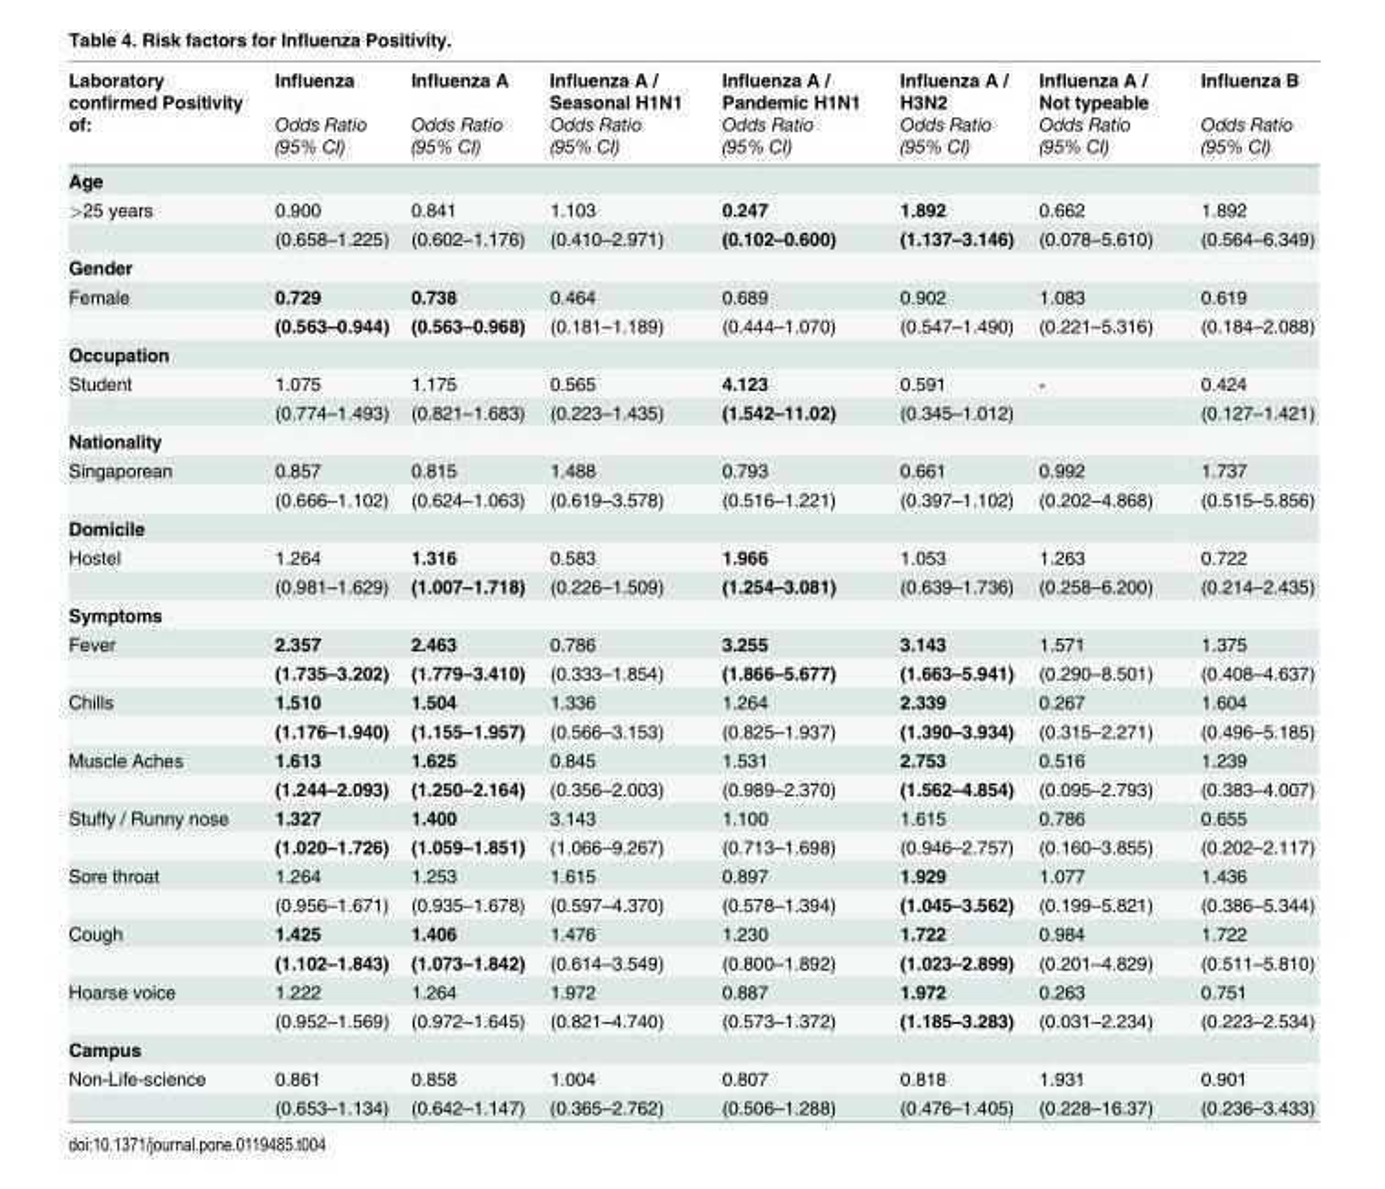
<table><thead><tr><td rowspan="2">Laboratory confirmed Positivity of:</td><td rowspan="2">Influenza Odds Ratio (95% CI)</td><td rowspan="2">Influenza A Odds Ratio (95% CI)</td><td rowspan="2">Influenza A / Seasonal H1N1 Odds Ratio (95% CI)</td><td rowspan="2">Influenza A / Pandemic H1N1 Odds Ratio (95% CI)</td><td rowspan="2">Influenza A / H3N2 Odds Ratio (95% CI)</td><td rowspan="2">Influenza A / Not typeable Odds Ratio (95% CI)</td><td rowspan="2">Influenza B Odds Ratio (95% CI)</td></tr><tr></tr></thead><tbody><tr><td colspan="8">Age</td></tr><tr><td rowspan="2">&gt;25 years</td><td>0.900</td><td>0.841</td><td>1.103</td><td>0.247</td><td>1.892</td><td>0.662</td><td>1.892</td></tr><tr><td>(0.658–1.225)</td><td>(0.602–1.176)</td><td>(0.410–2.971)</td><td>(0.102–0.600)</td><td>(1.137–3.146)</td><td>(0.078–5.610)</td><td>(0.564–6.349)</td></tr><tr><td colspan="8">Gender</td></tr><tr><td rowspan="2">Female</td><td>0.729</td><td>0.738</td><td>0.464</td><td>0.689</td><td>0.902</td><td>1.083</td><td>0.619</td></tr><tr><td>(0.563–0.944)</td><td>(0.563–0.968)</td><td>(0.181–1.189)</td><td>(0.444–1.070)</td><td>(0.547–1.490)</td><td>(0.221–5.316)</td><td>(0.184–2.088)</td></tr><tr><td colspan="8">Occupation</td></tr><tr><td rowspan="2">Student</td><td>1.075</td><td>1.175</td><td>0.565</td><td>4.123</td><td>0.591</td><td>-</td><td>0.424</td></tr><tr><td>(0.774–1.493)</td><td>(0.821–1.683)</td><td>(0.223–1.435)</td><td>(1.542–11.02)</td><td>(0.345–1.012)</td><td></td><td>(0.127–1.421)</td></tr><tr><td colspan="8">Nationality</td></tr><tr><td rowspan="2">Singaporean</td><td>0.857</td><td>0.815</td><td>1.488</td><td>0.793</td><td>0.661</td><td>0.992</td><td>1.737</td></tr><tr><td>(0.666–1.102)</td><td>(0.624–1.063)</td><td>(0.619–3.578)</td><td>(0.516–1.221)</td><td>(0.397–1.102)</td><td>(0.202–4.868)</td><td>(0.515–5.856)</td></tr><tr><td colspan="8">Domicile</td></tr><tr><td rowspan="2">Hostel</td><td>1.264</td><td>1.316</td><td>0.583</td><td>1.966</td><td>1.053</td><td>1.263</td><td>0.722</td></tr><tr><td>(0.981–1.629)</td><td>(1.007–1.718)</td><td>(0.226–1.509)</td><td>(1.254–3.081)</td><td>(0.639–1.736)</td><td>(0.258–6.200)</td><td>(0.214–2.435)</td></tr><tr><td colspan="8">Symptoms</td></tr><tr><td rowspan="2">Fever</td><td>2.357</td><td>2.463</td><td>0.786</td><td>3.255</td><td>3.143</td><td>1.571</td><td>1.375</td></tr><tr><td>(1.735–3.202)</td><td>(1.779–3.410)</td><td>(0.333–1.854)</td><td>(1.866–5.677)</td><td>(1.663–5.941)</td><td>(0.290–8.501)</td><td>(0.408–4.637)</td></tr><tr><td rowspan="2">Chills</td><td>1.510</td><td>1.504</td><td>1.336</td><td>1.264</td><td>2.339</td><td>0.267</td><td>1.604</td></tr><tr><td>(1.176–1.940)</td><td>(1.155–1.957)</td><td>(0.566–3.153)</td><td>(0.825–1.937)</td><td>(1.390–3.934)</td><td>(0.315–2.271)</td><td>(0.496–5.185)</td></tr><tr><td rowspan="2">Muscle Aches</td><td>1.613</td><td>1.625</td><td>0.845</td><td>1.531</td><td>2.753</td><td>0.516</td><td>1.239</td></tr><tr><td>(1.244–2.093)</td><td>(1.250–2.164)</td><td>(0.356–2.003)</td><td>(0.989–2.370)</td><td>(1.562–4.854)</td><td>(0.095–2.793)</td><td>(0.383–4.007)</td></tr><tr><td rowspan="2">Stuffy / Runny nose</td><td>1.327</td><td>1.400</td><td>3.143</td><td>1.100</td><td>1.615</td><td>0.786</td><td>0.655</td></tr><tr><td>(1.020–1.726)</td><td>(1.059–1.851)</td><td>(1.066–9.267)</td><td>(0.713–1.698)</td><td>(0.946–2.757)</td><td>(0.160–3.855)</td><td>(0.202–2.117)</td></tr><tr><td rowspan="2">Sore throat</td><td>1.264</td><td>1.253</td><td>1.615</td><td>0.897</td><td>1.929</td><td>1.077</td><td>1.436</td></tr><tr><td>(0.956–1.671)</td><td>(0.935–1.678)</td><td>(0.597–4.370)</td><td>(0.578–1.394)</td><td>(1.045–3.562)</td><td>(0.199–5.821)</td><td>(0.386–5.344)</td></tr><tr><td rowspan="2">Cough</td><td>1.425</td><td>1.406</td><td>1.476</td><td>1.230</td><td>1.722</td><td>0.984</td><td>1.722</td></tr><tr><td>(1.102–1.843)</td><td>(1.073–1.842)</td><td>(0.614–3.549)</td><td>(0.800–1.892)</td><td>(1.023–2.899)</td><td>(0.201–4.829)</td><td>(0.511–5.810)</td></tr><tr><td rowspan="2">Hoarse voice</td><td>1.222</td><td>1.264</td><td>1.972</td><td>0.887</td><td>1.972</td><td>0.263</td><td>0.751</td></tr><tr><td>(0.952–1.569)</td><td>(0.972–1.645)</td><td>(0.821–4.740)</td><td>(0.573–1.372)</td><td>(1.185–3.283)</td><td>(0.031–2.234)</td><td>(0.223–2.534)</td></tr><tr><td colspan="8">Campus</td></tr><tr><td rowspan="2">Non-Life-science</td><td>0.861</td><td>0.858</td><td>1.004</td><td>0.807</td><td>0.818</td><td>1.931</td><td>0.901</td></tr><tr><td>(0.653–1.134)</td><td>(0.642–1.147)</td><td>(0.365–2.762)</td><td>(0.506–1.288)</td><td>(0.476–1.405)</td><td>(0.228–16.37)</td><td>(0.236–3.433)</td></tr></tbody></table>